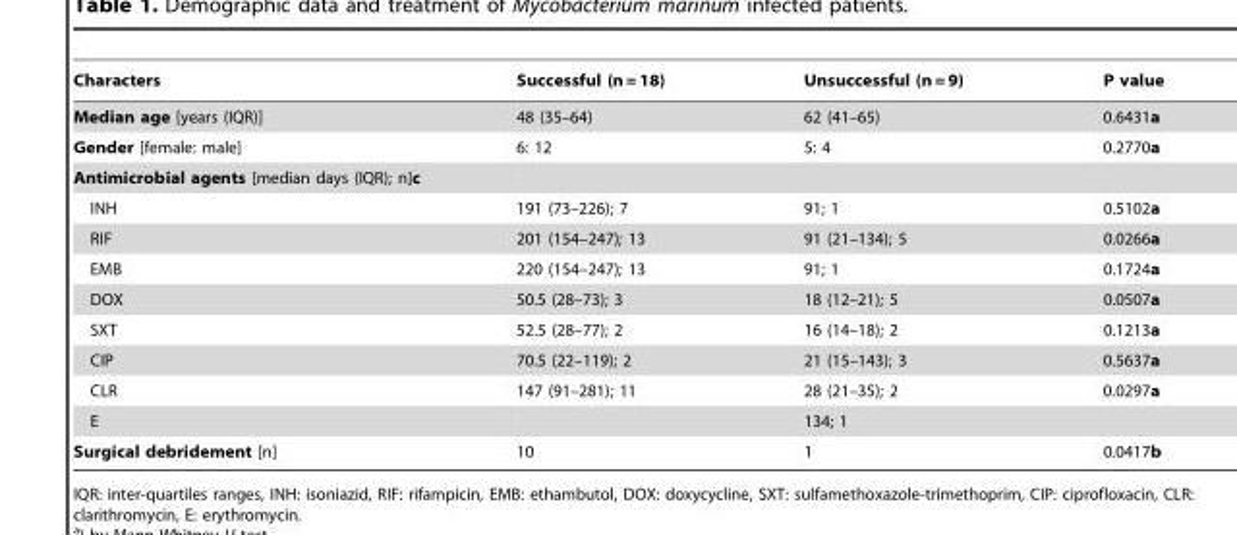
<table><thead><tr><td>Characters</td><td>Successful (n = 18)</td><td>Unsuccessful (n = 9)</td><td>P value</td></tr></thead><tbody><tr><td>Median age [years (IQR)]</td><td>48 (35–64)</td><td>62 (41–65)</td><td>0.6431a</td></tr><tr><td>Gender [female: male]</td><td>6: 12</td><td>5: 4</td><td>0.2770a</td></tr><tr><td colspan="4">Antimicrobial agents [median days (IQR); n]c</td></tr><tr><td>INH</td><td>191 (73–226); 7</td><td>91; 1</td><td>0.5102a</td></tr><tr><td>RIF</td><td>201 (154–247); 13</td><td>91 (21–134); 5</td><td>0.0266a</td></tr><tr><td>EMB</td><td>220 (154–247); 13</td><td>91; 1</td><td>0.1724a</td></tr><tr><td>DOX</td><td>50.5 (28–73); 3</td><td>18 (12–21); 5</td><td>0.0507a</td></tr><tr><td>SXT</td><td>52.5 (28–77); 2</td><td>16 (14–18); 2</td><td>0.1213a</td></tr><tr><td>CIP</td><td>70.5 (22–119); 2</td><td>21 (15–143); 3</td><td>0.5637a</td></tr><tr><td>CLR</td><td>147 (91–281); 11</td><td>28 (21–35); 2</td><td>0.0297a</td></tr><tr><td>E</td><td></td><td>134; 1</td><td></td></tr><tr><td>Surgical debridement [n]</td><td>10</td><td>1</td><td>0.0417b</td></tr></tbody></table>